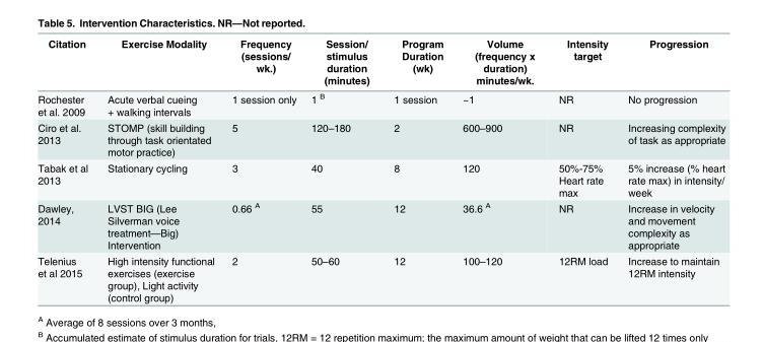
<table><thead><tr><td>Citation</td><td>Exercise Modality</td><td>Frequency (sessions/ wk.)</td><td>Session/ stimulus duration (minutes)</td><td>Program Duration (wk)</td><td>Volume (frequency x duration) minutes/wk.</td><td>Intensity target</td><td>Progression</td></tr></thead><tbody><tr><td>Rochester et al. 2009</td><td>Acute verbal cueing + walking intervals</td><td>1 session only</td><td>1 <sup>B</sup></td><td>1 session</td><td>~1</td><td>NR</td><td>No progression</td></tr><tr><td>Ciro et al. 2013</td><td>STOMP (skill building through task orientated motor practice)</td><td>5</td><td>120–180</td><td>2</td><td>600–900</td><td>NR</td><td>Increasing complexity of task as appropriate</td></tr><tr><td>Tabak et al 2013</td><td>Stationary cycling</td><td>3</td><td>40</td><td>8</td><td>120</td><td>50%-75% Heart rate max</td><td>5% increase (% heart rate max) in intensity/ week</td></tr><tr><td>Dawley, 2014</td><td>LVST BIG (Lee Silverman voice treatment—Big) Intervention</td><td>0.66 <sup>A</sup></td><td>55</td><td>12</td><td>36.6 <sup>A</sup></td><td>NR</td><td>Increase in velocity and movement complexity as appropriate</td></tr><tr><td>Telenius et al 2015</td><td>High intensity functional exercises (exercise group), Light activity (control group)</td><td>2</td><td>50–60</td><td>12</td><td>100–120</td><td>12RM load</td><td>Increase to maintain 12RM intensity</td></tr></tbody></table>